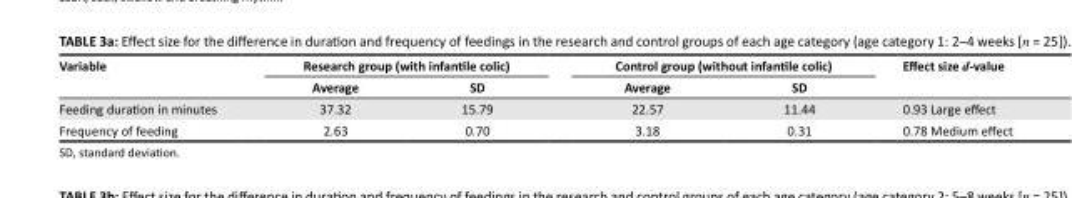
<table><thead><tr><td rowspan="2">Variable</td><td colspan="2">Research group (with infantile colic)</td><td colspan="2">Control group (without infantile colic)</td><td rowspan="2">Effect size d-value</td></tr><tr><td>Average</td><td>SD</td><td>Average</td><td>SD</td></tr></thead><tbody><tr><td>Feeding duration in minutes</td><td>37.32</td><td>15.79</td><td>22.57</td><td>11.44</td><td>0.93 Large effect</td></tr><tr><td>Frequency of feeding</td><td>2.63</td><td>0.70</td><td>3.18</td><td>0.31</td><td>0.78 Medium effect</td></tr></tbody></table>